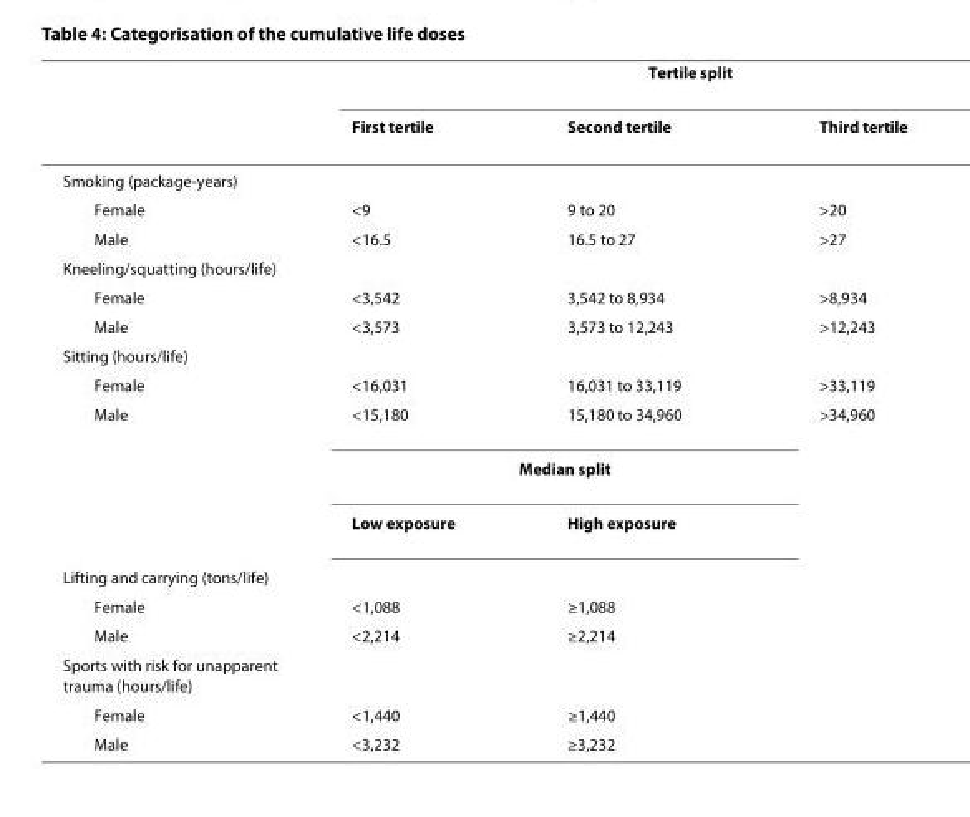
<table><thead><tr><td rowspan="2"></td><td colspan="3">Tertile split</td></tr><tr><td>First tertile</td><td>Second tertile</td><td>Third tertile</td></tr></thead><tbody><tr><td colspan="4">Smoking (package-years)</td></tr><tr><td>Female</td><td>&lt;9</td><td>9 to 20</td><td>&gt;20</td></tr><tr><td>Male</td><td>&lt;16.5</td><td>16.5 to 27</td><td>&gt;27</td></tr><tr><td colspan="4">Kneeling/squatting (hours/life)</td></tr><tr><td>Female</td><td>&lt;3,542</td><td>3,542 to 8,934</td><td>&gt;8,934</td></tr><tr><td>Male</td><td>&lt;3,573</td><td>3,573 to 12,243</td><td>&gt;12,243</td></tr><tr><td colspan="4">Sitting (hours/life)</td></tr><tr><td>Female</td><td>&lt;16,031</td><td>16,031 to 33,119</td><td>&gt;33,119</td></tr><tr><td rowspan="3">Male</td><td>&lt;15,180</td><td>15,180 to 34,960</td><td>&gt;34,960</td></tr><tr><td colspan="2">Median split</td><td></td></tr><tr><td>Low exposure</td><td>High exposure</td><td></td></tr><tr><td colspan="4">Lifting and carrying (tons/life)</td></tr><tr><td>Female</td><td>&lt;1,088</td><td>≥1,088</td><td></td></tr><tr><td>Male</td><td>&lt;2,214</td><td>≥2,214</td><td></td></tr><tr><td colspan="4">Sports with risk for unapparent trauma (hours/life)</td></tr><tr><td>Female</td><td>&lt;1,440</td><td>≥1,440</td><td></td></tr><tr><td>Male</td><td>&lt;3,232</td><td>≥3,232</td><td></td></tr></tbody></table>